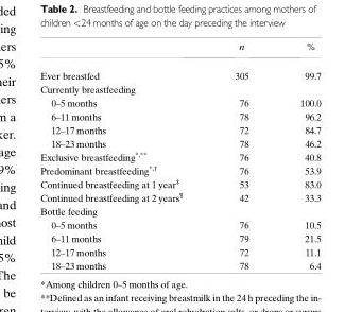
<table><thead><tr><td></td><td>n</td><td>%</td></tr></thead><tbody><tr><td>Ever breastfed</td><td>305</td><td>99.7</td></tr><tr><td colspan="3">Currently breastfeeding</td></tr><tr><td>0–5 months</td><td>76</td><td>100.0</td></tr><tr><td>6–11 months</td><td>78</td><td>96.2</td></tr><tr><td>12–17 months</td><td>72</td><td>84.7</td></tr><tr><td>18–23 months</td><td>78</td><td>46.2</td></tr><tr><td>Exclusive breastfeeding*,**</td><td>76</td><td>40.8</td></tr><tr><td>Predominant breastfeeding*,†</td><td>76</td><td>53.9</td></tr><tr><td>Continued breastfeeding at 1 year‡</td><td>53</td><td>83.0</td></tr><tr><td>Continued breastfeeding at 2 years¶</td><td>42</td><td>33.3</td></tr><tr><td colspan="3">Bottle feeding</td></tr><tr><td>0–5 months</td><td>76</td><td>10.5</td></tr><tr><td>6–11 months</td><td>79</td><td>21.5</td></tr><tr><td>12–17 months</td><td>72</td><td>11.1</td></tr><tr><td>18–23 months</td><td>78</td><td>6.4</td></tr></tbody></table>